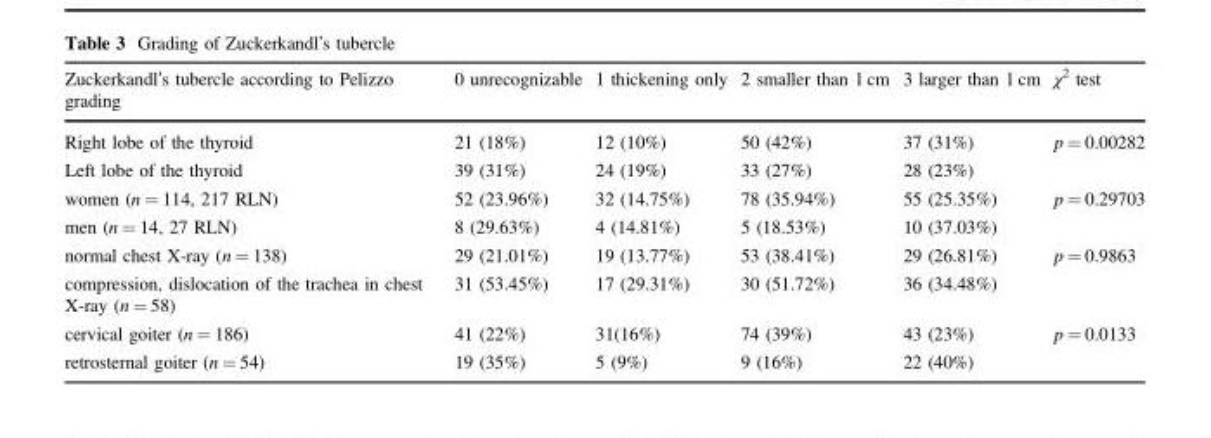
<table><thead><tr><td>Zuckerkandl’s tubercle according to Pelizzo grading</td><td>0 unrecognizable</td><td>1 thickening only</td><td>2 smaller than 1 cm</td><td>3 larger than 1 cm</td><td>χ<sup>2</sup> test</td></tr></thead><tbody><tr><td>Right lobe of the thyroid</td><td>21 (18%)</td><td>12 (10%)</td><td>50 (42%)</td><td>37 (31%)</td><td rowspan="2">p = 0.00282</td></tr><tr><td>Left lobe of the thyroid</td><td>39 (31%)</td><td>24 (19%)</td><td>33 (27%)</td><td>28 (23%)</td></tr><tr><td>women (n = 114, 217 RLN)</td><td>52 (23.96%)</td><td>32 (14.75%)</td><td>78 (35.94%)</td><td>55 (25.35%)</td><td rowspan="2">p = 0.29703</td></tr><tr><td>men (n = 14, 27 RLN)</td><td>8 (29.63%)</td><td>4 (14.81%)</td><td>5 (18.53%)</td><td>10 (37.03%)</td></tr><tr><td>normal chest X-ray (n = 138)</td><td>29 (21.01%)</td><td>19 (13.77%)</td><td>53 (38.41%)</td><td>29 (26.81%)</td><td rowspan="2">p = 0.9863</td></tr><tr><td>compression, dislocation of the trachea in chest X-ray (n = 58)</td><td>31 (53.45%)</td><td>17 (29.31%)</td><td>30 (51.72%)</td><td>36 (34.48%)</td></tr><tr><td>cervical goiter (n = 186)</td><td>41 (22%)</td><td>31(16%)</td><td>74 (39%)</td><td>43 (23%)</td><td rowspan="2">p = 0.0133</td></tr><tr><td>retrosternal goiter (n = 54)</td><td>19 (35%)</td><td>5 (9%)</td><td>9 (16%)</td><td>22 (40%)</td></tr></tbody></table>